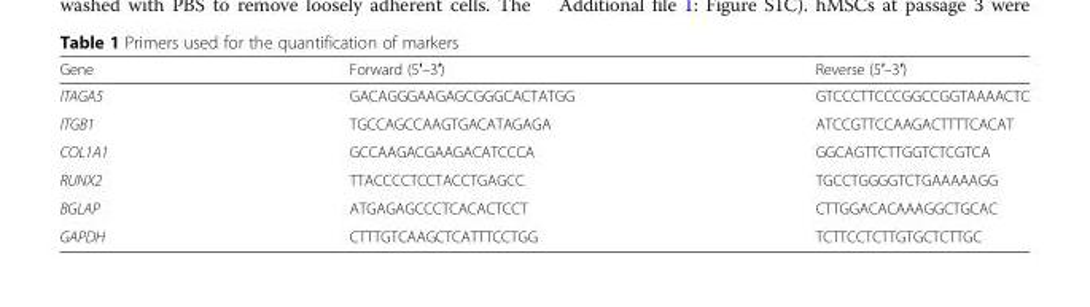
<table><thead><tr><td>Gene</td><td>Forward (5′–3′)</td><td>Reverse (5′–3′)</td></tr></thead><tbody><tr><td>ITAGA5</td><td>GACAGGGAAGAGCGGGCACTATGG</td><td>GTCCCTTCCCGGCCGGTAAAACTC</td></tr><tr><td>ITGB1</td><td>TGCCAGCCAAGTGACATAGAGA</td><td>ATCCGTTCCAAGACTTTTCACAT</td></tr><tr><td>COL1A1</td><td>GCCAAGACGAAGACATCCCA</td><td>GGCAGTTCTTGGTCTCGTCA</td></tr><tr><td>RUNX2</td><td>TTACCCCTCCTACCTGAGCC</td><td>TGCCTGGGGTCTGAAAAAGG</td></tr><tr><td>BGLAP</td><td>ATGAGAGCCCTCACACTCCT</td><td>CTTGGACACAAAGGCTGCAC</td></tr><tr><td>GAPDH</td><td>CTTTGTCAAGCTCATTTCCTGG</td><td>TCTTCCTCTTGTGCTCTTGC</td></tr></tbody></table>